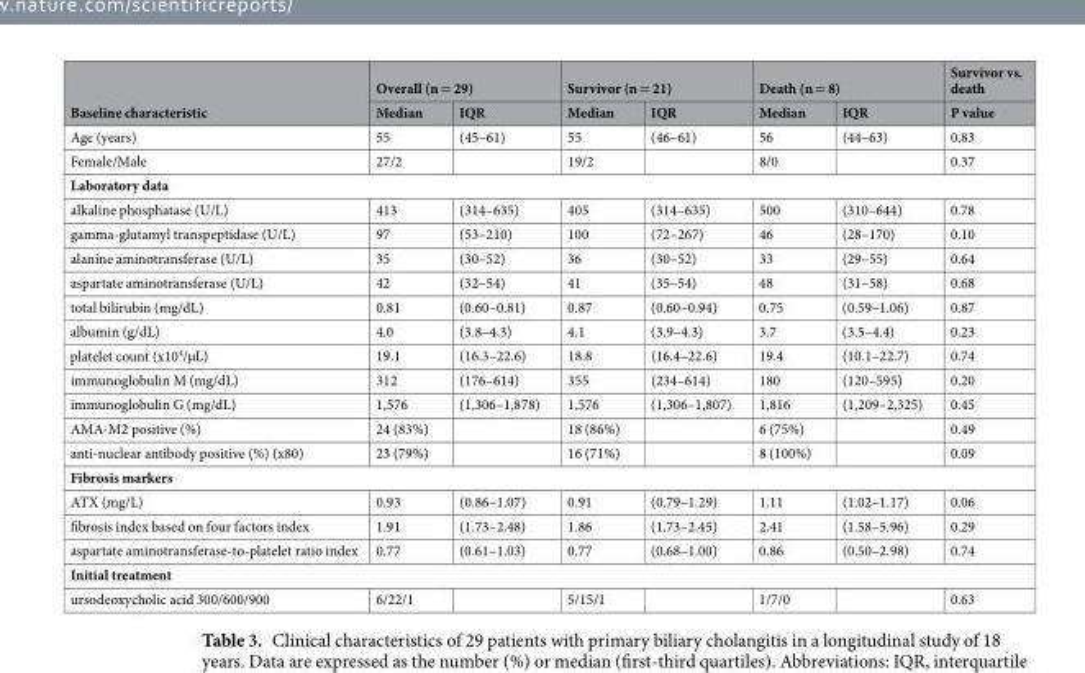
<table><thead><tr><td rowspan="2">Baseline characteristic</td><td colspan="2">Overall (n = 29)</td><td colspan="2">Survivor (n = 21)</td><td colspan="2">Death (n = 8)</td><td rowspan="2">Survivor vs. death P value</td></tr><tr><td>Median</td><td>IQR</td><td>Median</td><td>IQR</td><td>Median</td><td>IQR</td></tr></thead><tbody><tr><td>Age (years)</td><td>55</td><td>(45–61)</td><td>55</td><td>(46–61)</td><td>56</td><td>(44–63)</td><td>0.83</td></tr><tr><td>Female/Male</td><td>27/2</td><td></td><td>19/2</td><td></td><td>8/0</td><td></td><td>0.37</td></tr><tr><td colspan="8">Laboratory data</td></tr><tr><td>alkaline phosphatase (U/L)</td><td>413</td><td>(314–635)</td><td>405</td><td>(314–635)</td><td>500</td><td>(310–644)</td><td>0.78</td></tr><tr><td>gamma-glutamyl transpeptidase (U/L)</td><td>97</td><td>(53–210)</td><td>100</td><td>(72–267)</td><td>46</td><td>(28–170)</td><td>0.10</td></tr><tr><td>alanine aminotransferase (U/L)</td><td>35</td><td>(30–52)</td><td>36</td><td>(30–52)</td><td>33</td><td>(29–55)</td><td>0.64</td></tr><tr><td>aspartate aminotransferase (U/L)</td><td>42</td><td>(32–54)</td><td>41</td><td>(35–54)</td><td>48</td><td>(31–58)</td><td>0.68</td></tr><tr><td>total bilirubin (mg/dL)</td><td>0.81</td><td>(0.60–0.81)</td><td>0.87</td><td>(0.60–0.94)</td><td>0.75</td><td>(0.59–1.06)</td><td>0.87</td></tr><tr><td>albumin (g/dL)</td><td>4.0</td><td>(3.8–4.3)</td><td>4.1</td><td>(3.9–4.3)</td><td>3.7</td><td>(3.5–4.4)</td><td>0.23</td></tr><tr><td>platelet count (x10<sup>4</sup>/µL)</td><td>19.1</td><td>(16.3–22.6)</td><td>18.8</td><td>(16.4–22.6)</td><td>19.4</td><td>(10.1–22.7)</td><td>0.74</td></tr><tr><td>immunoglobulin M (mg/dL)</td><td>312</td><td>(176–614)</td><td>355</td><td>(234–614)</td><td>180</td><td>(120–595)</td><td>0.20</td></tr><tr><td>immunoglobulin G (mg/dL)</td><td>1,576</td><td>(1,306–1,878)</td><td>1,576</td><td>(1,306–1,807)</td><td>1,816</td><td>(1,209–2,325)</td><td>0.45</td></tr><tr><td>AMA-M2 positive (%)</td><td>24 (83%)</td><td></td><td>18 (86%)</td><td></td><td>6 (75%)</td><td></td><td>0.49</td></tr><tr><td>anti-nuclear antibody positive (%) (x80)</td><td>23 (79%)</td><td></td><td>16 (71%)</td><td></td><td>8 (100%)</td><td></td><td>0.09</td></tr><tr><td colspan="8">Fibrosis markers</td></tr><tr><td>ATX (mg/L)</td><td>0.93</td><td>(0.86–1.07)</td><td>0.91</td><td>(0.79–1.29)</td><td>1.11</td><td>(1.02–1.17)</td><td>0.06</td></tr><tr><td>fibrosis index based on four factors index</td><td>1.91</td><td>(1.73–2.48)</td><td>1.86</td><td>(1.73–2.45)</td><td>2.41</td><td>(1.58–5.96)</td><td>0.29</td></tr><tr><td>aspartate aminotransferase-to-platelet ratio index</td><td>0.77</td><td>(0.61–1.03)</td><td>0.77</td><td>(0.68–1.00)</td><td>0.86</td><td>(0.50–2.98)</td><td>0.74</td></tr><tr><td colspan="8">Initial treatment</td></tr><tr><td>ursodeoxycholic acid 300/600/900</td><td>6/22/1</td><td></td><td>5/15/1</td><td></td><td>1/7/0</td><td></td><td>0.63</td></tr></tbody></table>